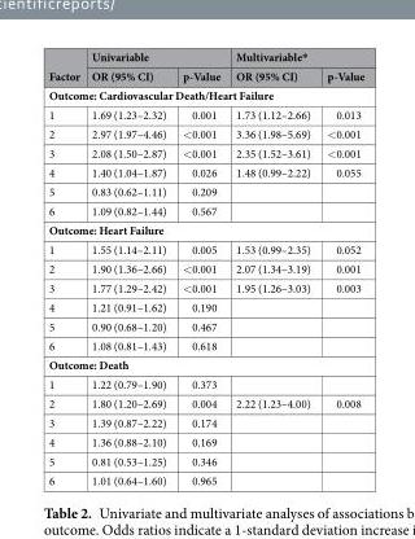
<table><thead><tr><td rowspan="2">Factor</td><td colspan="2">Univariable</td><td colspan="2">Multivariable*</td></tr><tr><td>OR (95% CI)</td><td>p-Value</td><td>OR (95% CI)</td><td>p-Value</td></tr></thead><tbody><tr><td colspan="5">Outcome: Cardiovascular Death/Heart Failure</td></tr><tr><td>1</td><td>1.69 (1.23–2.32)</td><td>0.001</td><td>1.73 (1.12–2.66)</td><td>0.013</td></tr><tr><td>2</td><td>2.97 (1.97–4.46)</td><td>&lt;0.001</td><td>3.36 (1.98–5.69)</td><td>&lt;0.001</td></tr><tr><td>3</td><td>2.08 (1.50–2.87)</td><td>&lt;0.001</td><td>2.35 (1.52–3.61)</td><td>&lt;0.001</td></tr><tr><td>4</td><td>1.40 (1.04–1.87)</td><td>0.026</td><td>1.48 (0.99–2.22)</td><td>0.055</td></tr><tr><td>5</td><td>0.83 (0.62–1.11)</td><td>0.209</td><td></td><td></td></tr><tr><td>6</td><td>1.09 (0.82–1.44)</td><td>0.567</td><td></td><td></td></tr><tr><td colspan="5">Outcome: Heart Failure</td></tr><tr><td>1</td><td>1.55 (1.14–2.11)</td><td>0.005</td><td>1.53 (0.99–2.35)</td><td>0.052</td></tr><tr><td>2</td><td>1.90 (1.36–2.66)</td><td>&lt;0.001</td><td>2.07 (1.34–3.19)</td><td>0.001</td></tr><tr><td>3</td><td>1.77 (1.29–2.42)</td><td>&lt;0.001</td><td>1.95 (1.26–3.03)</td><td>0.003</td></tr><tr><td>4</td><td>1.21 (0.91–1.62)</td><td>0.190</td><td></td><td></td></tr><tr><td>5</td><td>0.90 (0.68–1.20)</td><td>0.467</td><td></td><td></td></tr><tr><td>6</td><td>1.08 (0.81–1.43)</td><td>0.618</td><td></td><td></td></tr><tr><td colspan="5">Outcome: Death</td></tr><tr><td>1</td><td>1.22 (0.79–1.90)</td><td>0.373</td><td></td><td></td></tr><tr><td>2</td><td>1.80 (1.20–2.69)</td><td>0.004</td><td>2.22 (1.23–4.00)</td><td>0.008</td></tr><tr><td>3</td><td>1.39 (0.87–2.22)</td><td>0.174</td><td></td><td></td></tr><tr><td>4</td><td>1.36 (0.88–2.10)</td><td>0.169</td><td></td><td></td></tr><tr><td>5</td><td>0.81 (0.53–1.25)</td><td>0.346</td><td></td><td></td></tr><tr><td>6</td><td>1.01 (0.64–1.60)</td><td>0.965</td><td></td><td></td></tr></tbody></table>